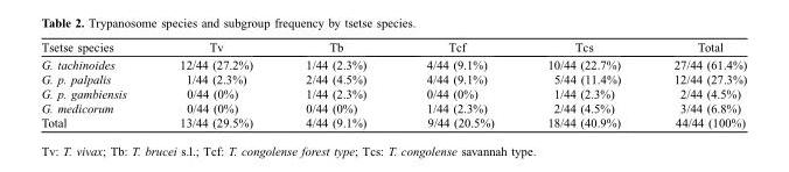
<table><thead><tr><td>Tsetse species</td><td>Tv</td><td>Tb</td><td>Tcf</td><td>Tcs</td><td>Total</td></tr></thead><tbody><tr><td>G. tachinoides</td><td>12/44 (27.2%)</td><td>1/44 (2.3%)</td><td>4/44 (9.1%)</td><td>10/44 (22.7%)</td><td>27/44 (61.4%)</td></tr><tr><td>G. p. palpalis</td><td>1/44 (2.3%)</td><td>2/44 (4.5%)</td><td>4/44 (9.1%)</td><td>5/44 (11.4%)</td><td>12/44 (27.3%)</td></tr><tr><td>G. p. gambiensis</td><td>0/44 (0%)</td><td>1/44 (2.3%)</td><td>0/44 (0%)</td><td>1/44 (2.3%)</td><td>2/44 (4.5%)</td></tr><tr><td>G. medicorum</td><td>0/44 (0%)</td><td>0/44 (0%)</td><td>1/44 (2.3%)</td><td>2/44 (4.5%)</td><td>3/44 (6.8%)</td></tr><tr><td>Total</td><td>13/44 (29.5%)</td><td>4/44 (9.1%)</td><td>9/44 (20.5%)</td><td>18/44 (40.9%)</td><td>44/44 (100%)</td></tr></tbody></table>